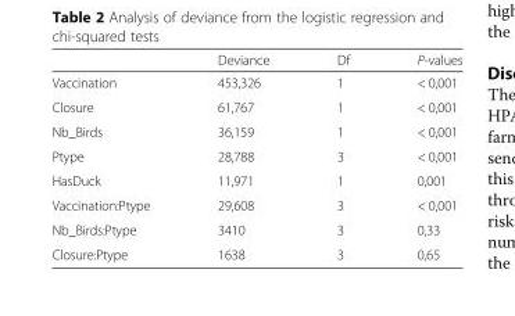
<table><thead><tr><td></td><td>Deviance</td><td>Df</td><td>P-values</td></tr></thead><tbody><tr><td>Vaccination</td><td>453,326</td><td>1</td><td>&lt; 0,001</td></tr><tr><td>Closure</td><td>61,767</td><td>1</td><td>&lt; 0,001</td></tr><tr><td>Nb_Birds</td><td>36,159</td><td>1</td><td>&lt; 0,001</td></tr><tr><td>Ptype</td><td>28,788</td><td>3</td><td>&lt; 0,001</td></tr><tr><td>HasDuck</td><td>11,971</td><td>1</td><td>0,001</td></tr><tr><td>Vaccination:Ptype</td><td>29,608</td><td>3</td><td>&lt; 0,001</td></tr><tr><td>Nb_Birds:Ptype</td><td>3410</td><td>3</td><td>0,33</td></tr><tr><td>Closure:Ptype</td><td>1638</td><td>3</td><td>0,65</td></tr></tbody></table>